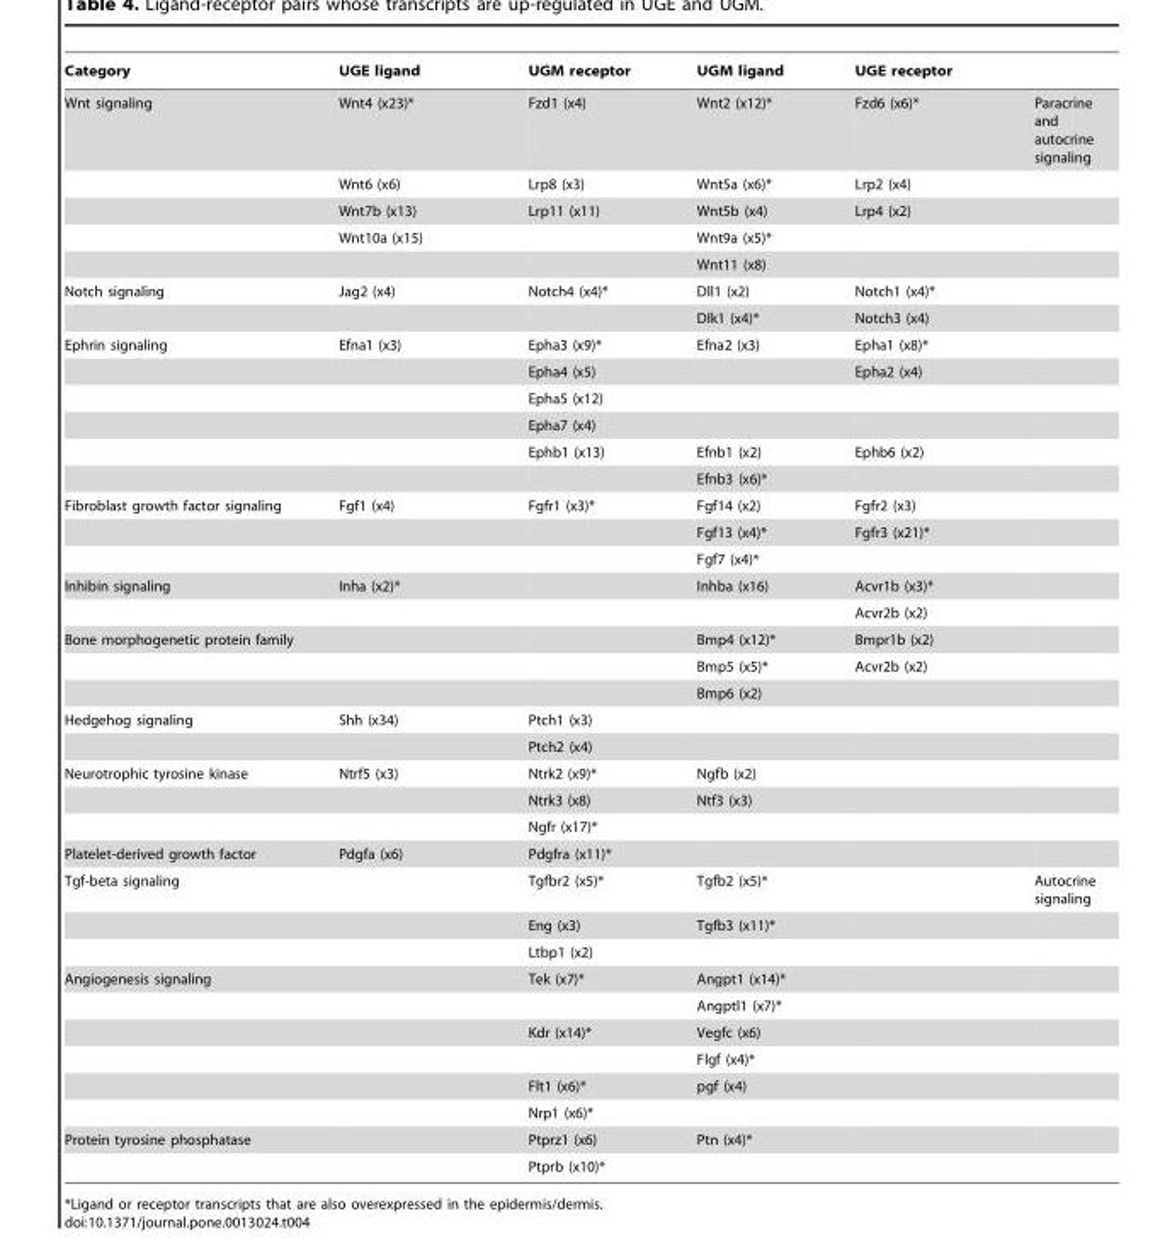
<table><thead><tr><td>Category</td><td>UGE ligand</td><td>UGM receptor</td><td>UGM ligand</td><td>UGE receptor</td><td></td></tr></thead><tbody><tr><td rowspan="5">Wnt signaling</td><td>Wnt4 (x23)*</td><td>Fzd1 (x4)</td><td>Wnt2 (x12)*</td><td>Fzd6 (x6)*</td><td>Paracrine and autocrine signaling</td></tr><tr><td>Wnt6 (x6)</td><td>Lrp8 (x3)</td><td>Wnt5a (x6)*</td><td>Lrp2 (x4)</td><td></td></tr><tr><td>Wnt7b (x13)</td><td>Lrp11 (x11)</td><td>Wnt5b (x4)</td><td>Lrp4 (x2)</td><td></td></tr><tr><td>Wnt10a (x15)</td><td></td><td>Wnt9a (x5)*</td><td></td><td></td></tr><tr><td></td><td></td><td>Wnt11 (x8)</td><td></td><td></td></tr><tr><td rowspan="2">Notch signaling</td><td>Jag2 (x4)</td><td>Notch4 (x4)*</td><td>Dll1 (x2)</td><td>Notch1 (x4)*</td><td></td></tr><tr><td></td><td></td><td>Dlk1 (x4)*</td><td>Notch3 (x4)</td><td></td></tr><tr><td rowspan="6">Ephrin signaling</td><td>Efna1 (x3)</td><td>Epha3 (x9)*</td><td>Efna2 (x3)</td><td>Epha1 (x8)*</td><td></td></tr><tr><td></td><td>Epha4 (x5)</td><td></td><td>Epha2 (x4)</td><td></td></tr><tr><td></td><td>Epha5 (x12)</td><td></td><td></td><td></td></tr><tr><td></td><td>Epha7 (x4)</td><td></td><td></td><td></td></tr><tr><td></td><td>Ephb1 (x13)</td><td>Efnb1 (x2)</td><td>Ephb6 (x2)</td><td></td></tr><tr><td></td><td></td><td>Efnb3 (x6)*</td><td></td><td></td></tr><tr><td rowspan="3">Fibroblast growth factor signaling</td><td>Fgf1 (x4)</td><td>Fgfr1 (x3)*</td><td>Fgf14 (x2)</td><td>Fgfr2 (x3)</td><td></td></tr><tr><td></td><td></td><td>Fgf13 (x4)*</td><td>Fgfr3 (x21)*</td><td></td></tr><tr><td></td><td></td><td>Fgf7 (x4)*</td><td></td><td></td></tr><tr><td rowspan="2">Inhibin signaling</td><td>Inha (x2)*</td><td></td><td>Inhba (x16)</td><td>Acvr1b (x3)*</td><td></td></tr><tr><td></td><td></td><td></td><td>Acvr2b (x2)</td><td></td></tr><tr><td rowspan="3">Bone morphogenetic protein family</td><td></td><td></td><td>Bmp4 (x12)*</td><td>Bmpr1b (x2)</td><td></td></tr><tr><td></td><td></td><td>Bmp5 (x5)*</td><td>Acvr2b (x2)</td><td></td></tr><tr><td></td><td></td><td>Bmp6 (x2)</td><td></td><td></td></tr><tr><td rowspan="2">Hedgehog signaling</td><td>Shh (x34)</td><td>Ptch1 (x3)</td><td></td><td></td><td></td></tr><tr><td></td><td>Ptch2 (x4)</td><td></td><td></td><td></td></tr><tr><td rowspan="3">Neurotrophic tyrosine kinase</td><td>Ntrf5 (x3)</td><td>Ntrk2 (x9)*</td><td>Ngfb (x2)</td><td></td><td></td></tr><tr><td></td><td>Ntrk3 (x8)</td><td>Ntf3 (x3)</td><td></td><td></td></tr><tr><td></td><td>Ngfr (x17)*</td><td></td><td></td><td></td></tr><tr><td>Platelet-derived growth factor</td><td>Pdgfa (x6)</td><td>Pdgfra (x11)*</td><td></td><td></td><td></td></tr><tr><td rowspan="3">Tgf-beta signaling</td><td></td><td>Tgfbr2 (x5)*</td><td>Tgfb2 (x5)*</td><td></td><td>Autocrine signaling</td></tr><tr><td></td><td>Eng (x3)</td><td>Tgfb3 (x11)*</td><td></td><td></td></tr><tr><td></td><td>Ltbp1 (x2)</td><td></td><td></td><td></td></tr><tr><td rowspan="6">Angiogenesis signaling</td><td></td><td>Tek (x7)*</td><td>Angpt1 (x14)*</td><td></td><td></td></tr><tr><td></td><td></td><td>Angptl1 (x7)*</td><td></td><td></td></tr><tr><td></td><td>Kdr (x14)*</td><td>Vegfc (x6)</td><td></td><td></td></tr><tr><td></td><td></td><td>Flgf (x4)*</td><td></td><td></td></tr><tr><td></td><td>Flt1 (x6)*</td><td>pgf (x4)</td><td></td><td></td></tr><tr><td></td><td>Nrp1 (x6)*</td><td></td><td></td><td></td></tr><tr><td rowspan="2">Protein tyrosine phosphatase</td><td></td><td>Ptprz1 (x6)</td><td>Ptn (x4)*</td><td></td><td></td></tr><tr><td></td><td>Ptprb (x10)*</td><td></td><td></td><td></td></tr></tbody></table>